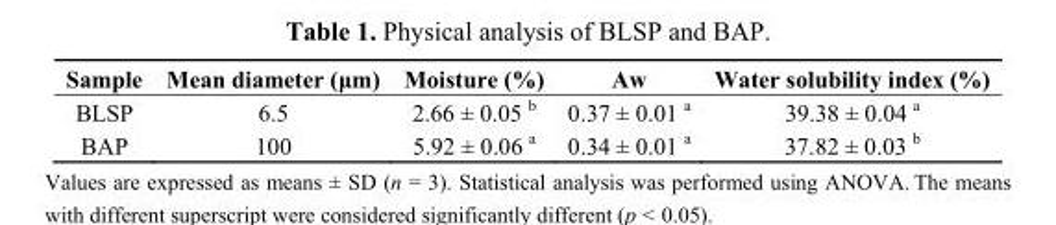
<table><thead><tr><td>Sample</td><td>Mean diameter (μm)</td><td>Moisture (%)</td><td>Aw</td><td>Water solubility index (%)</td></tr></thead><tbody><tr><td>BLSP</td><td>6.5</td><td>2.66 ± 0.05 <sup>b</sup></td><td>0.37 ± 0.01 <sup>a</sup></td><td>39.38 ± 0.04 <sup>a</sup></td></tr><tr><td>BAP</td><td>100</td><td>5.92 ± 0.06 <sup>a</sup></td><td>0.34 ± 0.01 <sup>a</sup></td><td>37.82 ± 0.03 <sup>b</sup></td></tr></tbody></table>